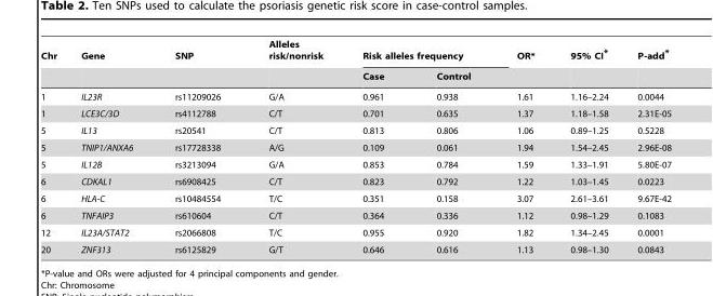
<table><thead><tr><td rowspan="2">Chr</td><td rowspan="2">Gene</td><td rowspan="2">SNP</td><td rowspan="2">Alleles risk/nonrisk</td><td colspan="2">Risk alleles frequency</td><td rowspan="2">OR*</td><td rowspan="2">95% CI*</td><td rowspan="2">P-add*</td></tr><tr><td>Case</td><td>Control</td></tr></thead><tbody><tr><td>1</td><td>IL23R</td><td>rs11209026</td><td>G/A</td><td>0.961</td><td>0.938</td><td>1.61</td><td>1.16–2.24</td><td>0.0044</td></tr><tr><td>1</td><td>LCE3C/3D</td><td>rs4112788</td><td>C/T</td><td>0.701</td><td>0.635</td><td>1.37</td><td>1.18–1.58</td><td>2.31E-05</td></tr><tr><td>5</td><td>IL13</td><td>rs20541</td><td>C/T</td><td>0.813</td><td>0.806</td><td>1.06</td><td>0.89–1.25</td><td>0.5228</td></tr><tr><td>5</td><td>TNIP1/ANXA6</td><td>rs17728338</td><td>A/G</td><td>0.109</td><td>0.061</td><td>1.94</td><td>1.54–2.45</td><td>2.96E-08</td></tr><tr><td>5</td><td>IL12B</td><td>rs3213094</td><td>G/A</td><td>0.853</td><td>0.784</td><td>1.59</td><td>1.33–1.91</td><td>5.80E-07</td></tr><tr><td>6</td><td>CDKAL1</td><td>rs6908425</td><td>C/T</td><td>0.823</td><td>0.792</td><td>1.22</td><td>1.03–1.45</td><td>0.0223</td></tr><tr><td>6</td><td>HLA-C</td><td>rs10484554</td><td>T/C</td><td>0.351</td><td>0.158</td><td>3.07</td><td>2.61–3.61</td><td>9.67E-42</td></tr><tr><td>6</td><td>TNFAIP3</td><td>rs610604</td><td>C/T</td><td>0.364</td><td>0.336</td><td>1.12</td><td>0.98–1.29</td><td>0.1083</td></tr><tr><td>12</td><td>IL23A/STAT2</td><td>rs2066808</td><td>T/C</td><td>0.955</td><td>0.920</td><td>1.82</td><td>1.34–2.45</td><td>0.0001</td></tr><tr><td>20</td><td>ZNF313</td><td>rs6125829</td><td>G/T</td><td>0.646</td><td>0.616</td><td>1.13</td><td>0.98–1.30</td><td>0.0843</td></tr></tbody></table>